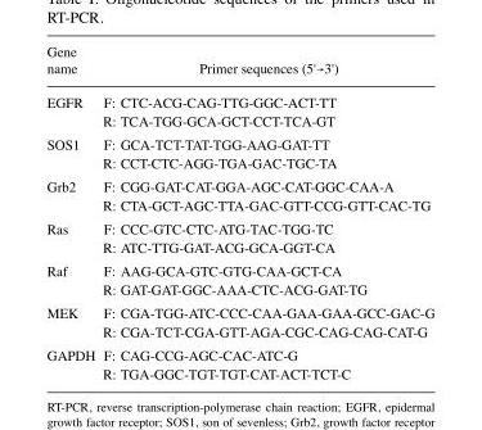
<table><thead><tr><td>Gene name</td><td>Primer sequences (5&#x27;→3&#x27;)</td></tr></thead><tbody><tr><td>EGFR</td><td>F: CTC-ACG-CAG-TTG-GGC-ACT-TT R: TCA-TGG-GCA-GCT-CCT-TCA-GT</td></tr><tr><td>SOS1</td><td>F: GCA-TCT-TAT-TGG-AAG-GAT-TT R: CCT-CTC-AGG-TGA-GAC-TGC-TA</td></tr><tr><td>Grb2</td><td>F: CGG-GAT-CAT-GGA-AGC-CAT-GGC-CAA-A R: CTA-GCT-AGC-TTA-GAC-GTT-CCG-GTT-CAC-TG</td></tr><tr><td>Ras</td><td>F: CCC-GTC-CTC-ATG-TAC-TGG-TC R: ATC-TTG-GAT-ACG-GCA-GGT-CA</td></tr><tr><td>Raf</td><td>F: AAG-GCA-GTC-GTG-CAA-GCT-CA R: GAT-GAT-GGC-AAA-CTC-ACG-GAT-TG</td></tr><tr><td>MEK</td><td>F: CGA-TGG-ATC-CCC-CAA-GAA-GAA-GCC-GAC-G R: CGA-TCT-CGA-GTT-AGA-CGC-CAG-CAG-CAT-G</td></tr><tr><td>GAPDH</td><td>F: CAG-CCG-AGC-CAC-ATC-G R: TGA-GGC-TGT-TGT-CAT-ACT-TCT-C</td></tr></tbody></table>